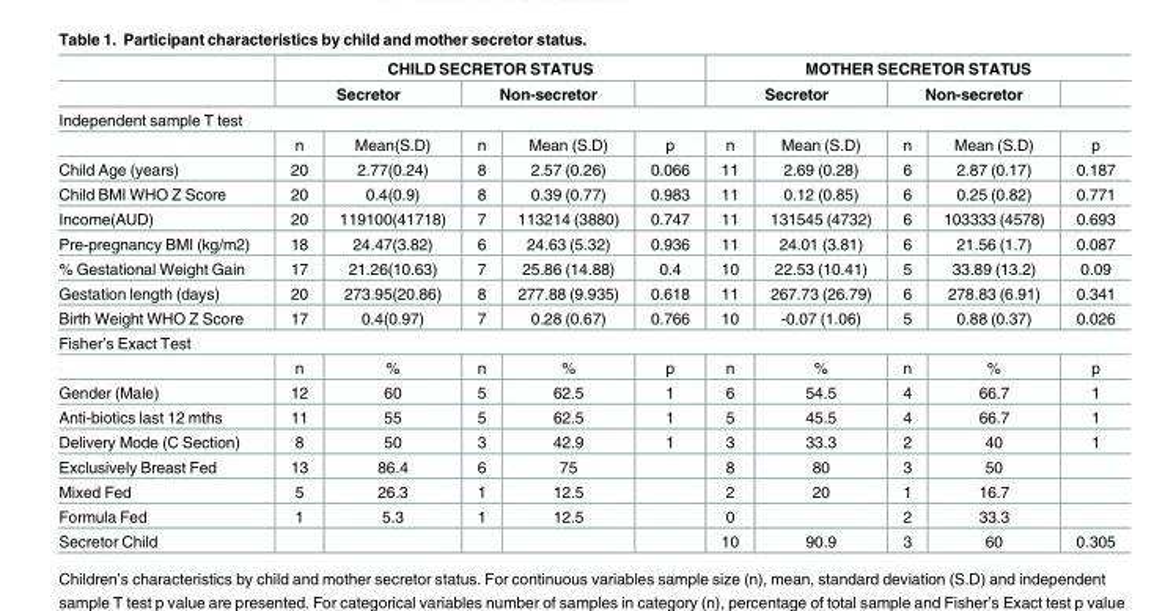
<table><thead><tr><td rowspan="2"></td><td colspan="5">CHILD SECRETOR STATUS</td><td colspan="5">MOTHER SECRETOR STATUS</td></tr><tr><td colspan="2">Secretor</td><td colspan="2">Non-secretor</td><td></td><td colspan="2">Secretor</td><td colspan="2">Non-secretor</td><td></td></tr><tr><td colspan="11">Independent sample T test</td></tr><tr><td></td><td>n</td><td>Mean(S.D)</td><td>n</td><td>Mean (S.D)</td><td>p</td><td>n</td><td>Mean (S.D)</td><td>n</td><td>Mean (S.D)</td><td>p</td></tr></thead><tbody><tr><td>Child Age (years)</td><td>20</td><td>2.77(0.24)</td><td>8</td><td>2.57 (0.26)</td><td>0.066</td><td>11</td><td>2.69 (0.28)</td><td>6</td><td>2.87 (0.17)</td><td>0.187</td></tr><tr><td>Child BMI WHO Z Score</td><td>20</td><td>0.4(0.9)</td><td>8</td><td>0.39 (0.77)</td><td>0.983</td><td>11</td><td>0.12 (0.85)</td><td>6</td><td>0.25 (0.82)</td><td>0.771</td></tr><tr><td>Income(AUD)</td><td>20</td><td>119100(41718)</td><td>7</td><td>113214 (3880)</td><td>0.747</td><td>11</td><td>131545 (4732)</td><td>6</td><td>103333 (4578)</td><td>0.693</td></tr><tr><td>Pre-pregnancy BMI (kg/m2)</td><td>18</td><td>24.47(3.82)</td><td>6</td><td>24.63 (5.32)</td><td>0.936</td><td>11</td><td>24.01 (3.81)</td><td>6</td><td>21.56 (1.7)</td><td>0.087</td></tr><tr><td>% Gestational Weight Gain</td><td>17</td><td>21.26(10.63)</td><td>7</td><td>25.86 (14.88)</td><td>0.4</td><td>10</td><td>22.53 (10.41)</td><td>5</td><td>33.89 (13.2)</td><td>0.09</td></tr><tr><td>Gestation length (days)</td><td>20</td><td>273.95(20.86)</td><td>8</td><td>277.88 (9.935)</td><td>0.618</td><td>11</td><td>267.73 (26.79)</td><td>6</td><td>278.83 (6.91)</td><td>0.341</td></tr><tr><td>Birth Weight WHO Z Score</td><td>17</td><td>0.4(0.97)</td><td>7</td><td>0.28 (0.67)</td><td>0.766</td><td>10</td><td>-0.07 (1.06)</td><td>5</td><td>0.88 (0.37)</td><td>0.026</td></tr><tr><td colspan="11">Fisher’s Exact Test</td></tr><tr><td></td><td>n</td><td>%</td><td>n</td><td>%</td><td>p</td><td>n</td><td>%</td><td>n</td><td>%</td><td>p</td></tr><tr><td>Gender (Male)</td><td>12</td><td>60</td><td>5</td><td>62.5</td><td>1</td><td>6</td><td>54.5</td><td>4</td><td>66.7</td><td>1</td></tr><tr><td>Anti-biotics last 12 mths</td><td>11</td><td>55</td><td>5</td><td>62.5</td><td>1</td><td>5</td><td>45.5</td><td>4</td><td>66.7</td><td>1</td></tr><tr><td>Delivery Mode (C Section)</td><td>8</td><td>50</td><td>3</td><td>42.9</td><td>1</td><td>3</td><td>33.3</td><td>2</td><td>40</td><td>1</td></tr><tr><td>Exclusively Breast Fed</td><td>13</td><td>86.4</td><td>6</td><td>75</td><td></td><td>8</td><td>80</td><td>3</td><td>50</td><td></td></tr><tr><td>Mixed Fed</td><td>5</td><td>26.3</td><td>1</td><td>12.5</td><td></td><td>2</td><td>20</td><td>1</td><td>16.7</td><td></td></tr><tr><td>Formula Fed</td><td>1</td><td>5.3</td><td>1</td><td>12.5</td><td></td><td>0</td><td></td><td>2</td><td>33.3</td><td></td></tr><tr><td>Secretor Child</td><td></td><td></td><td></td><td></td><td></td><td>10</td><td>90.9</td><td>3</td><td>60</td><td>0.305</td></tr></tbody></table>